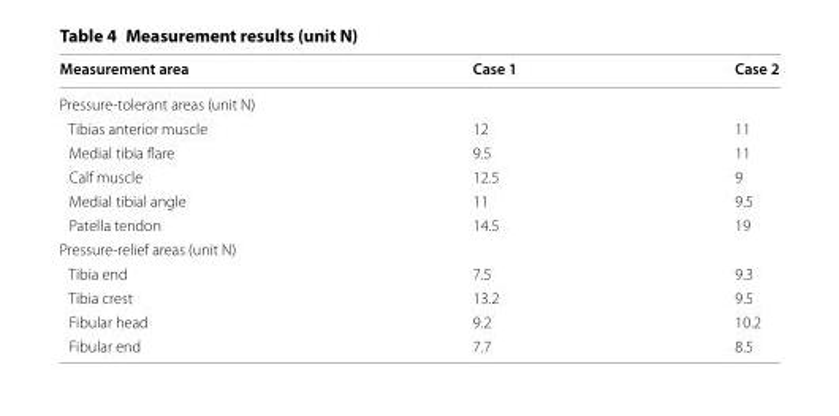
<table><thead><tr><td>Measurement area</td><td>Case 1</td><td>Case 2</td></tr></thead><tbody><tr><td colspan="3">Pressure‑tolerant areas (unit N)</td></tr><tr><td>Tibias anterior muscle</td><td>12</td><td>11</td></tr><tr><td>Medial tibia flare</td><td>9.5</td><td>11</td></tr><tr><td>Calf muscle</td><td>12.5</td><td>9</td></tr><tr><td>Medial tibial angle</td><td>11</td><td>9.5</td></tr><tr><td>Patella tendon</td><td>14.5</td><td>19</td></tr><tr><td colspan="3">Pressure‑relief areas (unit N)</td></tr><tr><td>Tibia end</td><td>7.5</td><td>9.3</td></tr><tr><td>Tibia crest</td><td>13.2</td><td>9.5</td></tr><tr><td>Fibular head</td><td>9.2</td><td>10.2</td></tr><tr><td>Fibular end</td><td>7.7</td><td>8.5</td></tr></tbody></table>